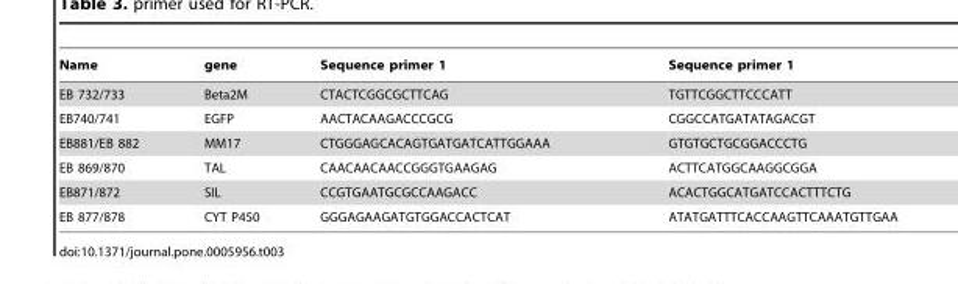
<table><thead><tr><td>Name</td><td>gene</td><td>Sequence primer 1</td><td>Sequence primer 1</td></tr></thead><tbody><tr><td>EB 732/733</td><td>Beta2M</td><td>CTACTCGGCGCTTCAG</td><td>TGTTCGGCTTCCCATT</td></tr><tr><td>EB740/741</td><td>EGFP</td><td>AACTACAAGACCCGCG</td><td>CGGCCATGATATAGACGT</td></tr><tr><td>EB881/EB 882</td><td>MM17</td><td>CTGGGAGCACAGTGATGATCATTGGAAA</td><td>GTGTGCTGCGGACCCTG</td></tr><tr><td>EB 869/870</td><td>TAL</td><td>CAACAACAACCGGGTGAAGAG</td><td>ACTTCATGGCAAGGCGGA</td></tr><tr><td>EB871/872</td><td>SIL</td><td>CCGTGAATGCGCCAAGACC</td><td>ACACTGGCATGATCCACTTTCTG</td></tr><tr><td>EB 877/878</td><td>CYT P450</td><td>GGGAGAAGATGTGGACCACTCAT</td><td>ATATGATTTCACCAAGTTCAAATGTTGAA</td></tr></tbody></table>